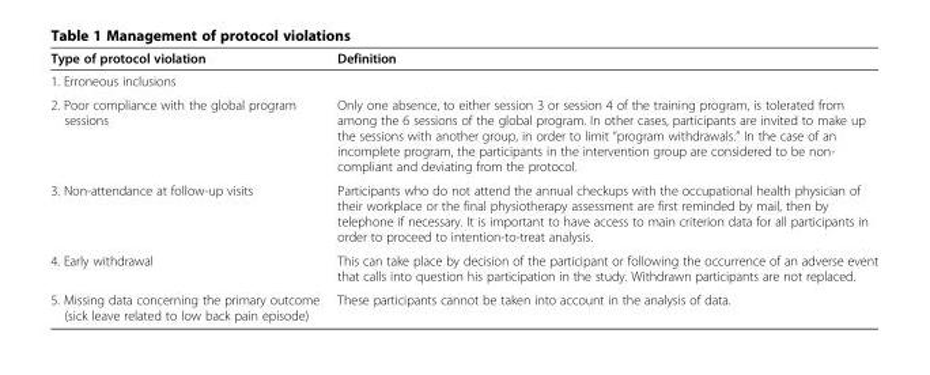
<table><thead><tr><td>Type of protocol violation</td><td>Definition</td></tr></thead><tbody><tr><td colspan="2">1. Erroneous inclusions</td></tr><tr><td>2. Poor compliance with the global program sessions</td><td>Only one absence, to either session 3 or session 4 of the training program, is tolerated from among the 6 sessions of the global program. In other cases, participants are invited to make up the sessions with another group, in order to limit “program withdrawals.” In the case of an incomplete program, the participants in the intervention group are considered to be non- compliant and deviating from the protocol.</td></tr><tr><td>3. Non-attendance at follow-up visits</td><td>Participants who do not attend the annual checkups with the occupational health physician of their workplace or the final physiotherapy assessment are first reminded by mail, then by telephone if necessary. It is important to have access to main criterion data for all participants in order to proceed to intention-to-treat analysis.</td></tr><tr><td>4. Early withdrawal</td><td>This can take place by decision of the participant or following the occurrence of an adverse event that calls into question his participation in the study. Withdrawn participants are not replaced.</td></tr><tr><td>5. Missing data concerning the primary outcome (sick leave related to low back pain episode)</td><td>These participants cannot be taken into account in the analysis of data.</td></tr></tbody></table>